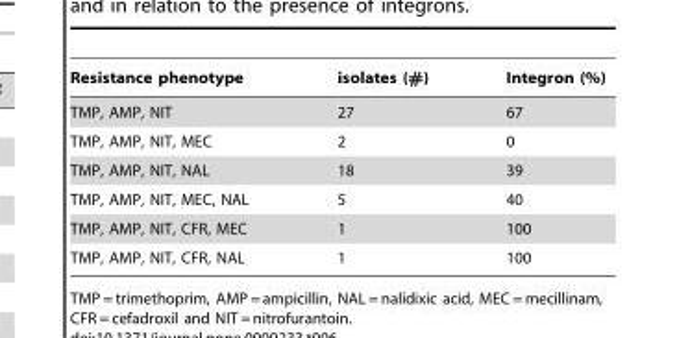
<table><thead><tr><td>Resistance phenotype</td><td>isolates (#)</td><td>Integron (%)</td></tr></thead><tbody><tr><td>TMP, AMP, NIT</td><td>27</td><td>67</td></tr><tr><td>TMP, AMP, NIT, MEC</td><td>2</td><td>0</td></tr><tr><td>TMP, AMP, NIT, NAL</td><td>18</td><td>39</td></tr><tr><td>TMP, AMP, NIT, MEC, NAL</td><td>5</td><td>40</td></tr><tr><td>TMP, AMP, NIT, CFR, MEC</td><td>1</td><td>100</td></tr><tr><td>TMP, AMP, NIT, CFR, NAL</td><td>1</td><td>100</td></tr></tbody></table>